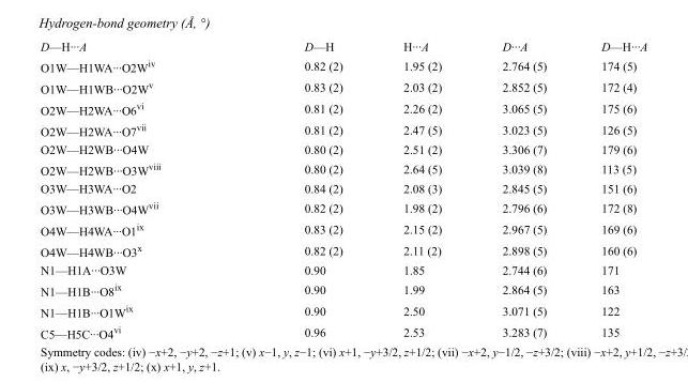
<table><tbody><tr><td>D—H···A</td><td>D—H</td><td>H···A</td><td>D···A</td><td>D—H···A</td></tr><tr><td>O1W—H1WA···O2W<sup>iv</sup></td><td>0.82 (2)</td><td>1.95 (2)</td><td>2.764 (5)</td><td>174 (5)</td></tr><tr><td>O1W—H1WB···O2W<sup>v</sup></td><td>0.83 (2)</td><td>2.03 (2)</td><td>2.852 (5)</td><td>172 (4)</td></tr><tr><td>O2W—H2WA···O6<sup>vi</sup></td><td>0.81 (2)</td><td>2.26 (2)</td><td>3.065 (5)</td><td>175 (6)</td></tr><tr><td>O2W—H2WA···O7<sup>vii</sup></td><td>0.81 (2)</td><td>2.47 (5)</td><td>3.023 (5)</td><td>126 (5)</td></tr><tr><td>O2W—H2WB···O4W</td><td>0.80 (2)</td><td>2.51 (2)</td><td>3.306 (7)</td><td>179 (6)</td></tr><tr><td>O2W—H2WB···O3W<sup>viii</sup></td><td>0.80 (2)</td><td>2.64 (5)</td><td>3.039 (8)</td><td>113 (5)</td></tr><tr><td>O3W—H3WA···O2</td><td>0.84 (2)</td><td>2.08 (3)</td><td>2.845 (5)</td><td>151 (6)</td></tr><tr><td>O3W—H3WB···O4W<sup>vii</sup></td><td>0.82 (2)</td><td>1.98 (2)</td><td>2.796 (6)</td><td>172 (8)</td></tr><tr><td>O4W—H4WA···O1<sup>ix</sup></td><td>0.83 (2)</td><td>2.15 (2)</td><td>2.967 (5)</td><td>169 (6)</td></tr><tr><td>O4W—H4WB···O3<sup>x</sup></td><td>0.82 (2)</td><td>2.11 (2)</td><td>2.898 (5)</td><td>160 (6)</td></tr><tr><td>N1—H1A···O3W</td><td>0.90</td><td>1.85</td><td>2.744 (6)</td><td>171</td></tr><tr><td>N1—H1B···O8<sup>ix</sup></td><td>0.90</td><td>1.99</td><td>2.864 (5)</td><td>163</td></tr><tr><td>N1—H1B···O1W<sup>ix</sup></td><td>0.90</td><td>2.50</td><td>3.071 (5)</td><td>122</td></tr><tr><td>C5—H5C···O4<sup>vi</sup></td><td>0.96</td><td>2.53</td><td>3.283 (7)</td><td>135</td></tr></tbody></table>